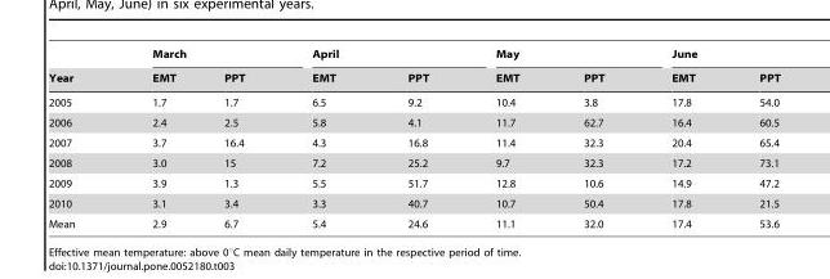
<table><thead><tr><td rowspan="2">Year</td><td colspan="2">March</td><td colspan="2">April</td><td colspan="2">May</td><td colspan="2">June</td></tr><tr><td>EMT</td><td>PPT</td><td>EMT</td><td>PPT</td><td>EMT</td><td>PPT</td><td>EMT</td><td>PPT</td></tr></thead><tbody><tr><td>2005</td><td>1.7</td><td>1.7</td><td>6.5</td><td>9.2</td><td>10.4</td><td>3.8</td><td>17.8</td><td>54.0</td></tr><tr><td>2006</td><td>2.4</td><td>2.5</td><td>5.8</td><td>4.1</td><td>11.7</td><td>62.7</td><td>16.4</td><td>60.5</td></tr><tr><td>2007</td><td>3.7</td><td>16.4</td><td>4.3</td><td>16.8</td><td>11.4</td><td>32.3</td><td>20.4</td><td>65.4</td></tr><tr><td>2008</td><td>3.0</td><td>15</td><td>7.2</td><td>25.2</td><td>9.7</td><td>32.3</td><td>17.2</td><td>73.1</td></tr><tr><td>2009</td><td>3.9</td><td>1.3</td><td>5.5</td><td>51.7</td><td>12.8</td><td>10.6</td><td>14.9</td><td>47.2</td></tr><tr><td>2010</td><td>3.1</td><td>3.4</td><td>3.3</td><td>40.7</td><td>10.7</td><td>50.4</td><td>17.8</td><td>21.5</td></tr><tr><td>Mean</td><td>2.9</td><td>6.7</td><td>5.4</td><td>24.6</td><td>11.1</td><td>32.0</td><td>17.4</td><td>53.6</td></tr></tbody></table>